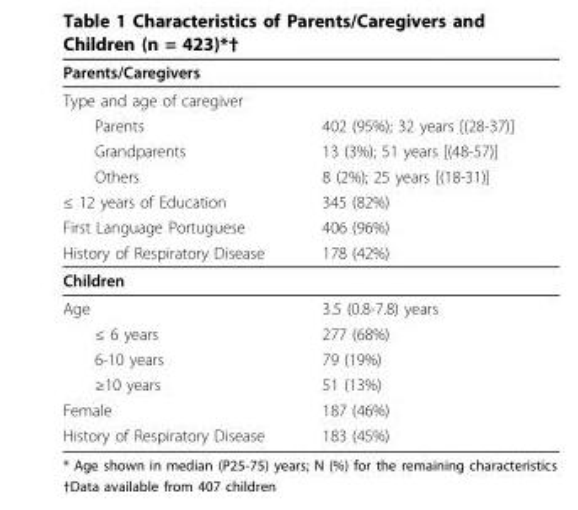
<table><thead><tr><td colspan="2">Parents/Caregivers</td></tr><tr><td>Type and age of caregiver</td><td></td></tr></thead><tbody><tr><td>Parents</td><td>402 (95%); 32 years [(28-37)]</td></tr><tr><td>Grandparents</td><td>13 (3%); 51 years [(48-57)]</td></tr><tr><td>Others</td><td>8 (2%); 25 years [(18-31)]</td></tr><tr><td>≤ 12 years of Education</td><td>345 (82%)</td></tr><tr><td>First Language Portuguese</td><td>406 (96%)</td></tr><tr><td>History of Respiratory Disease</td><td>178 (42%)</td></tr><tr><td colspan="2">Children</td></tr><tr><td>Age</td><td>3.5 (0.8-7.8) years</td></tr><tr><td>≤ 6 years</td><td>277 (68%)</td></tr><tr><td>6-10 years</td><td>79 (19%)</td></tr><tr><td>≥10 years</td><td>51 (13%)</td></tr><tr><td>Female</td><td>187 (46%)</td></tr><tr><td>History of Respiratory Disease</td><td>183 (45%)</td></tr></tbody></table>